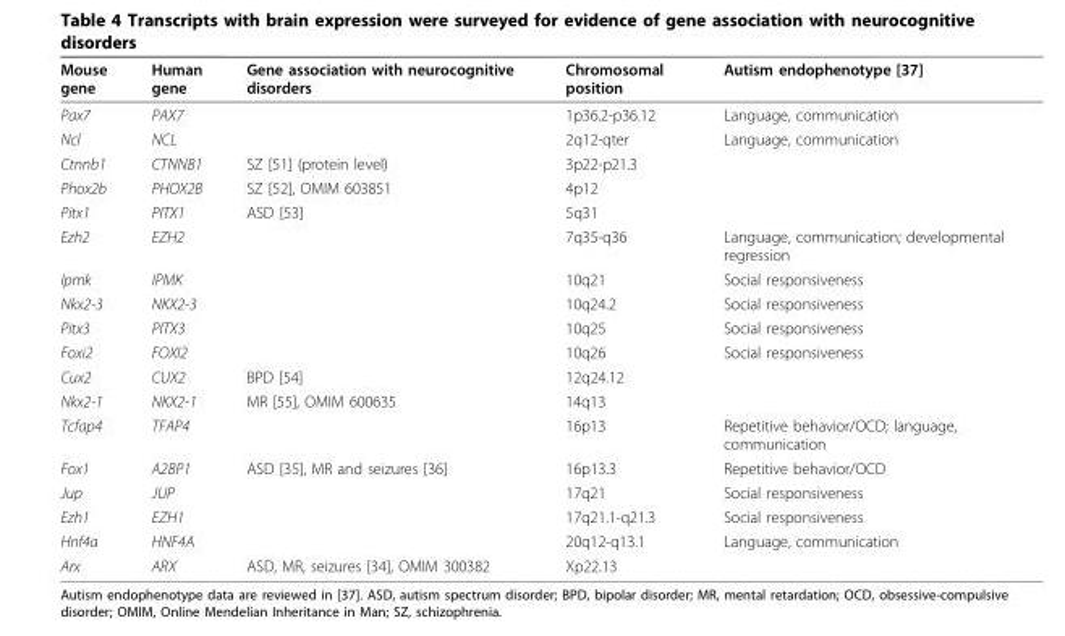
<table><thead><tr><td>Mouse gene</td><td>Human gene</td><td>Gene association with neurocognitive disorders</td><td>Chromosomal position</td><td>Autism endophenotype [37]</td></tr></thead><tbody><tr><td>Pax7</td><td>PAX7</td><td></td><td>1p36.2-p36.12</td><td>Language, communication</td></tr><tr><td>Ncl</td><td>NCL</td><td></td><td>2q12-qter</td><td>Language, communication</td></tr><tr><td>Ctnnb1</td><td>CTNNB1</td><td>SZ [51] (protein level)</td><td>3p22-p21.3</td><td></td></tr><tr><td>Phox2b</td><td>PHOX2B</td><td>SZ [52], OMIM 603851</td><td>4p12</td><td></td></tr><tr><td>Pitx1</td><td>PITX1</td><td>ASD [53]</td><td>5q31</td><td></td></tr><tr><td>Ezh2</td><td>EZH2</td><td></td><td>7q35-q36</td><td>Language, communication; developmental regression</td></tr><tr><td>Ipmk</td><td>IPMK</td><td></td><td>10q21</td><td>Social responsiveness</td></tr><tr><td>Nkx2-3</td><td>NKX2-3</td><td></td><td>10q24.2</td><td>Social responsiveness</td></tr><tr><td>Pitx3</td><td>PITX3</td><td></td><td>10q25</td><td>Social responsiveness</td></tr><tr><td>Foxi2</td><td>FOXI2</td><td></td><td>10q26</td><td>Social responsiveness</td></tr><tr><td>Cux2</td><td>CUX2</td><td>BPD [54]</td><td>12q24.12</td><td></td></tr><tr><td>Nkx2-1</td><td>NKX2-1</td><td>MR [55], OMIM 600635</td><td>14q13</td><td></td></tr><tr><td>Tcfap4</td><td>TFAP4</td><td></td><td>16p13</td><td>Repetitive behavior/OCD; language, communication</td></tr><tr><td>Fox1</td><td>A2BP1</td><td>ASD [35], MR and seizures [36]</td><td>16p13.3</td><td>Repetitive behavior/OCD</td></tr><tr><td>Jup</td><td>JUP</td><td></td><td>17q21</td><td>Social responsiveness</td></tr><tr><td>Ezh1</td><td>EZH1</td><td></td><td>17q21.1-q21.3</td><td>Social responsiveness</td></tr><tr><td>Hnf4a</td><td>HNF4A</td><td></td><td>20q12-q13.1</td><td>Language, communication</td></tr><tr><td>Arx</td><td>ARX</td><td>ASD, MR, seizures [34], OMIM 300382</td><td>Xp22.13</td><td></td></tr></tbody></table>